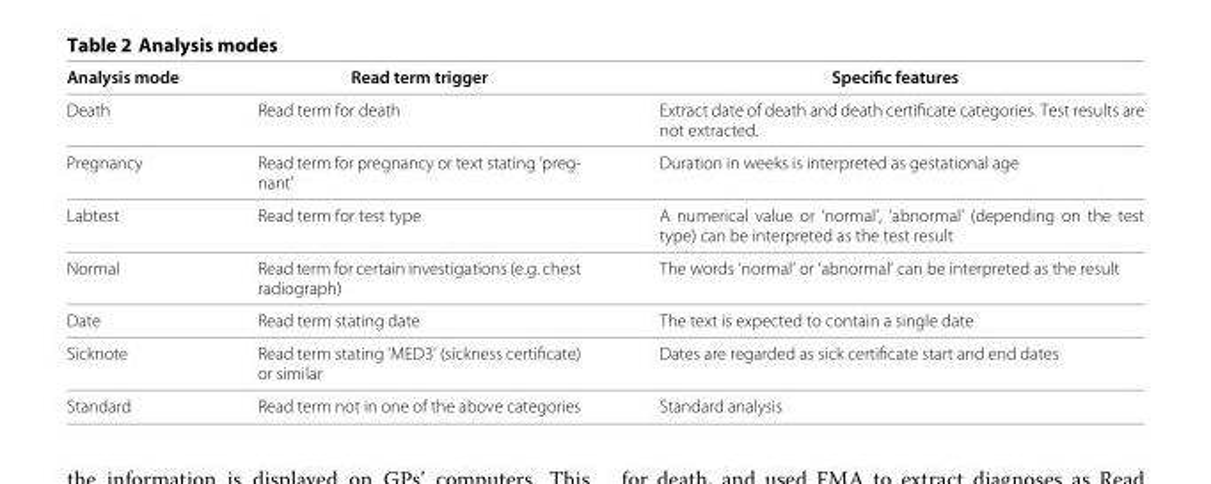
<table><thead><tr><td>Analysis mode</td><td>Read term trigger</td><td>Specific features</td></tr></thead><tbody><tr><td>Death</td><td>Read term for death</td><td>Extract date of death and death certificate categories. Test results are not extracted.</td></tr><tr><td>Pregnancy</td><td>Read term for pregnancy or text stating ‘preg- nant’</td><td>Duration in weeks is interpreted as gestational age</td></tr><tr><td>Labtest</td><td>Read term for test type</td><td>A numerical value or ‘normal’, ‘abnormal’ (depending on the test type) can be interpreted as the test result</td></tr><tr><td>Normal</td><td>Read term for certain investigations (e.g. chest radiograph)</td><td>The words ‘normal’ or ‘abnormal’ can be interpreted as the result</td></tr><tr><td>Date</td><td>Read term stating date</td><td>The text is expected to contain a single date</td></tr><tr><td>Sicknote</td><td>Read term stating ‘MED3’ (sickness certificate) or similar</td><td>Dates are regarded as sick certificate start and end dates</td></tr><tr><td>Standard</td><td>Read term not in one of the above categories</td><td>Standard analysis</td></tr></tbody></table>